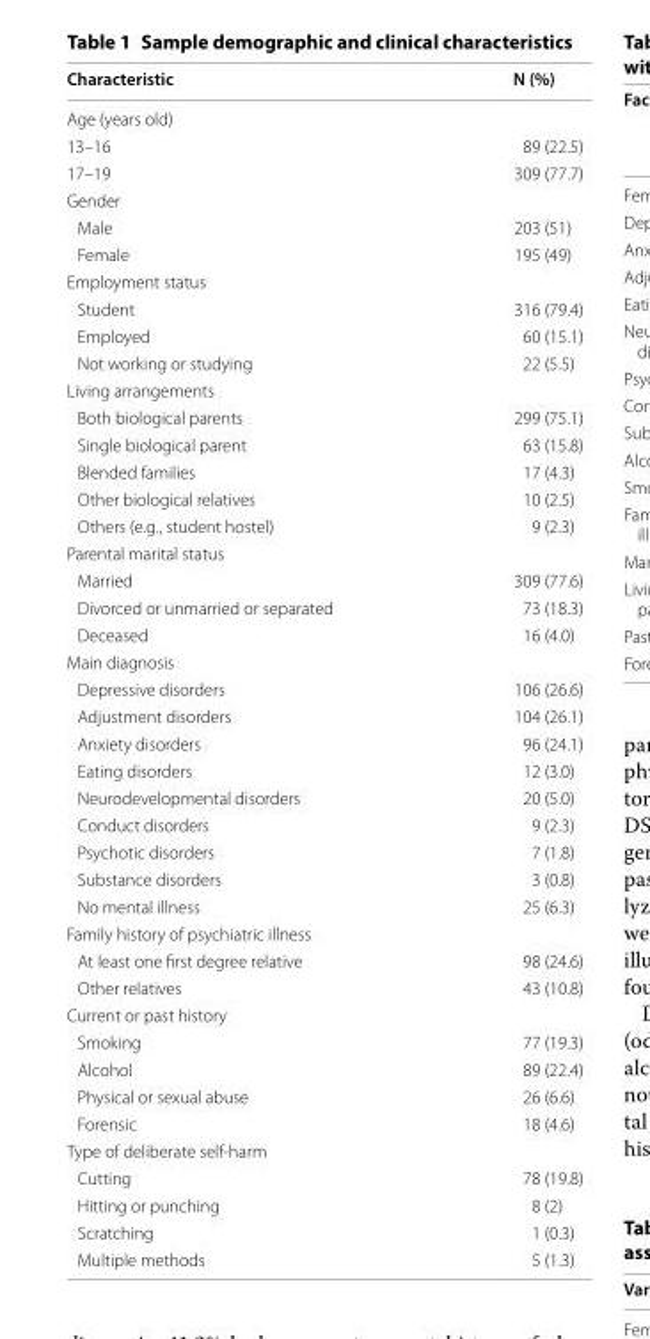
<table><thead><tr><td>Characteristic</td><td>N (%)</td></tr></thead><tbody><tr><td colspan="2">Age (years old)</td></tr><tr><td>13–16</td><td>89 (22.5)</td></tr><tr><td>17–19</td><td>309 (77.7)</td></tr><tr><td colspan="2">Gender</td></tr><tr><td>Male</td><td>203 (51)</td></tr><tr><td>Female</td><td>195 (49)</td></tr><tr><td colspan="2">Employment status</td></tr><tr><td>Student</td><td>316 (79.4)</td></tr><tr><td>Employed</td><td>60 (15.1)</td></tr><tr><td>Not working or studying</td><td>22 (5.5)</td></tr><tr><td colspan="2">Living arrangements</td></tr><tr><td>Both biological parents</td><td>299 (75.1)</td></tr><tr><td>Single biological parent</td><td>63 (15.8)</td></tr><tr><td>Blended families</td><td>17 (4.3)</td></tr><tr><td>Other biological relatives</td><td>10 (2.5)</td></tr><tr><td>Others (e.g., student hostel)</td><td>9 (2.3)</td></tr><tr><td colspan="2">Parental marital status</td></tr><tr><td>Married</td><td>309 (77.6)</td></tr><tr><td>Divorced or unmarried or separated</td><td>73 (18.3)</td></tr><tr><td>Deceased</td><td>16 (4.0)</td></tr><tr><td colspan="2">Main diagnosis</td></tr><tr><td>Depressive disorders</td><td>106 (26.6)</td></tr><tr><td>Adjustment disorders</td><td>104 (26.1)</td></tr><tr><td>Anxiety disorders</td><td>96 (24.1)</td></tr><tr><td>Eating disorders</td><td>12 (3.0)</td></tr><tr><td>Neurodevelopmental disorders</td><td>20 (5.0)</td></tr><tr><td>Conduct disorders</td><td>9 (2.3)</td></tr><tr><td>Psychotic disorders</td><td>7 (1.8)</td></tr><tr><td>Substance disorders</td><td>3 (0.8)</td></tr><tr><td>No mental illness</td><td>25 (6.3)</td></tr><tr><td colspan="2">Family history of psychiatric illness</td></tr><tr><td>At least one first degree relative</td><td>98 (24.6)</td></tr><tr><td>Other relatives</td><td>43 (10.8)</td></tr><tr><td colspan="2">Current or past history</td></tr><tr><td>Smoking</td><td>77 (19.3)</td></tr><tr><td>Alcohol</td><td>89 (22.4)</td></tr><tr><td>Physical or sexual abuse</td><td>26 (6.6)</td></tr><tr><td>Forensic</td><td>18 (4.6)</td></tr><tr><td colspan="2">Type of deliberate self-harm</td></tr><tr><td>Cutting</td><td>78 (19.8)</td></tr><tr><td>Hitting or punching</td><td>8 (2)</td></tr><tr><td>Scratching</td><td>1 (0.3)</td></tr><tr><td>Multiple methods</td><td>5 (1.3)</td></tr></tbody></table>